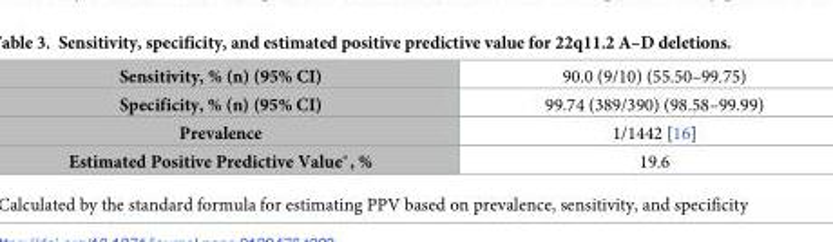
<table><tbody><tr><td>Sensitivity, % (n) (95% CI)</td><td>90.0 (9/10) (55.50–99.75)</td></tr><tr><td>Specificity, % (n) (95% CI)</td><td>99.74 (389/390) (98.58–99.99)</td></tr><tr><td>Prevalence</td><td>1/1442 [16]</td></tr><tr><td>Estimated Positive Predictive Value*, %</td><td>19.6</td></tr></tbody></table>